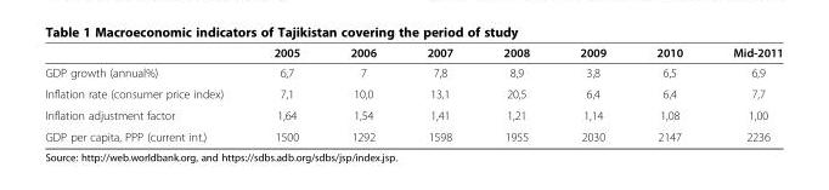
<table><thead><tr><td></td><td>2005</td><td>2006</td><td>2007</td><td>2008</td><td>2009</td><td>2010</td><td>Mid-2011</td></tr></thead><tbody><tr><td>GDP growth (annual%)</td><td>6,7</td><td>7</td><td>7,8</td><td>8,9</td><td>3,8</td><td>6,5</td><td>6,9</td></tr><tr><td>Inflation rate (consumer price index)</td><td>7,1</td><td>10,0</td><td>13,1</td><td>20,5</td><td>6,4</td><td>6,4</td><td>7,7</td></tr><tr><td>Inflation adjustment factor</td><td>1,64</td><td>1,54</td><td>1,41</td><td>1,21</td><td>1,14</td><td>1,08</td><td>1,00</td></tr><tr><td>GDP per capita, PPP (current int.)</td><td>1500</td><td>1292</td><td>1598</td><td>1955</td><td>2030</td><td>2147</td><td>2236</td></tr></tbody></table>